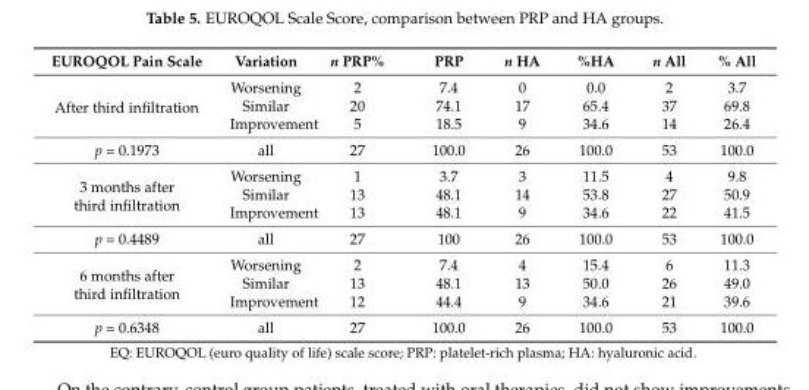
<table><thead><tr><td>EUROQOL Pain Scale</td><td>Variation</td><td>n PRP%</td><td>PRP</td><td>n HA</td><td>%HA</td><td>n All</td><td>% All</td></tr></thead><tbody><tr><td rowspan="3">After third infiltration</td><td>Worsening</td><td>2</td><td>7.4</td><td>0</td><td>0.0</td><td>2</td><td>3.7</td></tr><tr><td>Similar</td><td>20</td><td>74.1</td><td>17</td><td>65.4</td><td>37</td><td>69.8</td></tr><tr><td>Improvement</td><td>5</td><td>18.5</td><td>9</td><td>34.6</td><td>14</td><td>26.4</td></tr><tr><td>p = 0.1973</td><td>all</td><td>27</td><td>100.0</td><td>26</td><td>100.0</td><td>53</td><td>100.0</td></tr><tr><td rowspan="3">3 months after third infiltration</td><td>Worsening</td><td>1</td><td>3.7</td><td>3</td><td>11.5</td><td>4</td><td>9.8</td></tr><tr><td>Similar</td><td>13</td><td>48.1</td><td>14</td><td>53.8</td><td>27</td><td>50.9</td></tr><tr><td>Improvement</td><td>13</td><td>48.1</td><td>9</td><td>34.6</td><td>22</td><td>41.5</td></tr><tr><td>p = 0.4489</td><td>all</td><td>27</td><td>100</td><td>26</td><td>100.0</td><td>53</td><td>100.0</td></tr><tr><td rowspan="3">6 months after third infiltration</td><td>Worsening</td><td>2</td><td>7.4</td><td>4</td><td>15.4</td><td>6</td><td>11.3</td></tr><tr><td>Similar</td><td>13</td><td>48.1</td><td>13</td><td>50.0</td><td>26</td><td>49.0</td></tr><tr><td>Improvement</td><td>12</td><td>44.4</td><td>9</td><td>34.6</td><td>21</td><td>39.6</td></tr><tr><td>p = 0.6348</td><td>all</td><td>27</td><td>100.0</td><td>26</td><td>100.0</td><td>53</td><td>100.0</td></tr></tbody></table>